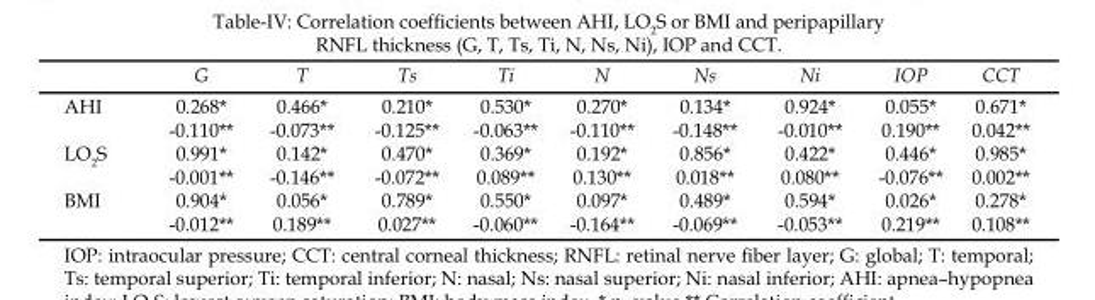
<table><thead><tr><td></td><td>G</td><td>T</td><td>Ts</td><td>Ti</td><td>N</td><td>Ns</td><td>Ni</td><td>IOP</td><td>CCT</td></tr></thead><tbody><tr><td rowspan="2">AHI</td><td>0.268*</td><td>0.466*</td><td>0.210*</td><td>0.530*</td><td>0.270*</td><td>0.134*</td><td>0.924*</td><td>0.055*</td><td>0.671*</td></tr><tr><td>-0.110**</td><td>-0.073**</td><td>-0.125**</td><td>-0.063**</td><td>-0.110**</td><td>-0.148**</td><td>-0.010**</td><td>0.190**</td><td>0.042**</td></tr><tr><td rowspan="2">LO<sub>2</sub>S</td><td>0.991*</td><td>0.142*</td><td>0.470*</td><td>0.369*</td><td>0.192*</td><td>0.856*</td><td>0.422*</td><td>0.446*</td><td>0.985*</td></tr><tr><td>-0.001**</td><td>-0.146**</td><td>-0.072**</td><td>0.089**</td><td>0.130**</td><td>0.018**</td><td>0.080**</td><td>-0.076**</td><td>0.002**</td></tr><tr><td rowspan="2">BMI</td><td>0.904*</td><td>0.056*</td><td>0.789*</td><td>0.550*</td><td>0.097*</td><td>0.489*</td><td>0.594*</td><td>0.026*</td><td>0.278*</td></tr><tr><td>-0.012**</td><td>0.189**</td><td>0.027**</td><td>-0.060**</td><td>-0.164**</td><td>-0.069**</td><td>-0.053**</td><td>0.219**</td><td>0.108**</td></tr></tbody></table>